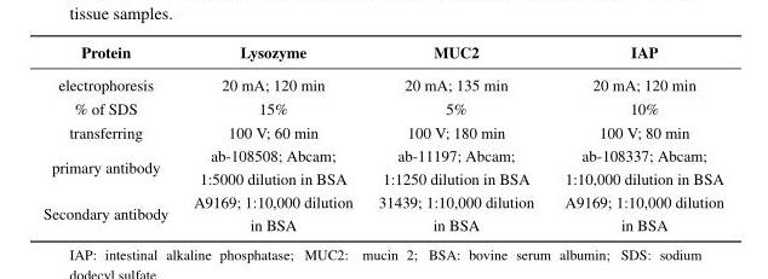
<table><thead><tr><td>Protein</td><td>Lysozyme</td><td>MUC2</td><td>IAP</td></tr></thead><tbody><tr><td>electrophoresis</td><td>20 mA; 120 min</td><td>20 mA; 135 min</td><td>20 mA; 120 min</td></tr><tr><td>% of SDS</td><td>15%</td><td>5%</td><td>10%</td></tr><tr><td>transferring</td><td>100 V; 60 min</td><td>100 V; 180 min</td><td>100 V; 80 min</td></tr><tr><td>primary antibody</td><td>ab-108508; Abcam; 1:5000 dilution in BSA</td><td>ab-11197; Abcam; 1:1250 dilution in BSA</td><td>ab-108337; Abcam; 1:10,000 dilution in BSA</td></tr><tr><td>Secondary antibody</td><td>A9169; 1:10,000 dilution in BSA</td><td>31439; 1:10,000 dilution in BSA</td><td>A9169; 1:10,000 dilution in BSA</td></tr></tbody></table>